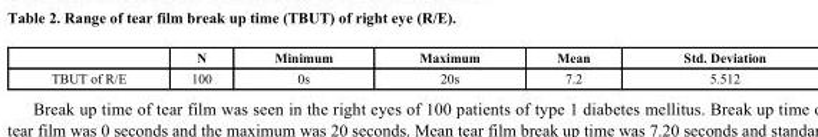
<table><thead><tr><td></td><td>N</td><td>Minimum</td><td>Maximum</td><td>Mean</td><td>Std. Deviation</td></tr></thead><tbody><tr><td>TBUT of R/E</td><td>100</td><td>0s</td><td>20s</td><td>7.2</td><td>5.512</td></tr></tbody></table>